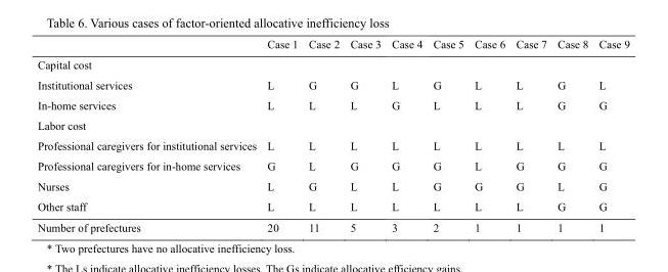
<table><thead><tr><td></td><td>Case 1</td><td>Case 2</td><td>Case 3</td><td>Case 4</td><td>Case 5</td><td>Case 6</td><td>Case 7</td><td>Case 8</td><td>Case 9</td></tr></thead><tbody><tr><td colspan="10">Capital cost</td></tr><tr><td>Institutional services</td><td>L</td><td>G</td><td>G</td><td>L</td><td>G</td><td>L</td><td>L</td><td>G</td><td>L</td></tr><tr><td>In-home services</td><td>L</td><td>L</td><td>L</td><td>G</td><td>L</td><td>L</td><td>L</td><td>G</td><td>G</td></tr><tr><td colspan="10">Labor cost</td></tr><tr><td>Professional caregivers for institutional services</td><td>L</td><td>L</td><td>L</td><td>L</td><td>L</td><td>L</td><td>L</td><td>L</td><td>L</td></tr><tr><td>Professional caregivers for in-home services</td><td>G</td><td>L</td><td>G</td><td>G</td><td>G</td><td>L</td><td>G</td><td>G</td><td>G</td></tr><tr><td>Nurses</td><td>L</td><td>G</td><td>L</td><td>L</td><td>G</td><td>G</td><td>G</td><td>L</td><td>G</td></tr><tr><td>Other staff</td><td>L</td><td>L</td><td>L</td><td>L</td><td>L</td><td>L</td><td>L</td><td>G</td><td>G</td></tr><tr><td>Number of prefectures</td><td>20</td><td>11</td><td>5</td><td>3</td><td>2</td><td>1</td><td>1</td><td>1</td><td>1</td></tr></tbody></table>